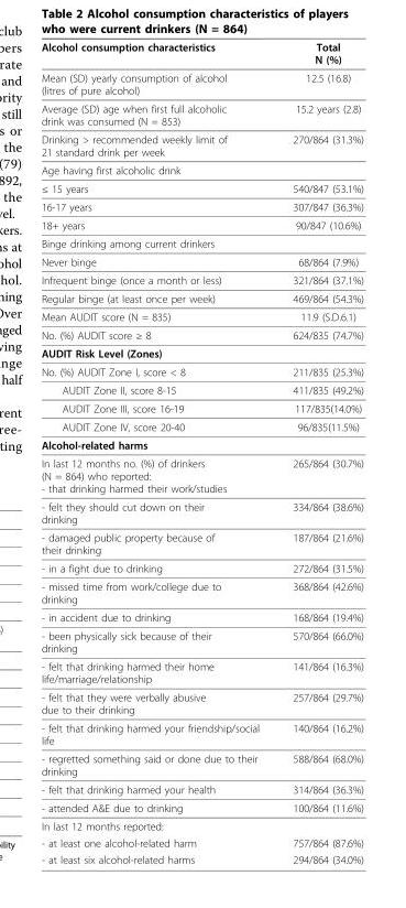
<table><thead><tr><td>Alcohol consumption characteristics</td><td>Total N (%)</td></tr></thead><tbody><tr><td>Mean (SD) yearly consumption of alcohol (litres of pure alcohol)</td><td>12.5 (16.8)</td></tr><tr><td>Average (SD) age when first full alcoholic drink was consumed (N = 853)</td><td>15.2 years (2.8)</td></tr><tr><td>Drinking &gt; recommended weekly limit of 21 standard drink per week</td><td>270/864 (31.3%)</td></tr><tr><td colspan="2">Age having first alcoholic drink</td></tr><tr><td>≤ 15 years</td><td>540/847 (53.1%)</td></tr><tr><td>16-17 years</td><td>307/847 (36.3%)</td></tr><tr><td>18+ years</td><td>90/847 (10.6%)</td></tr><tr><td colspan="2">Binge drinking among current drinkers</td></tr><tr><td>Never binge</td><td>68/864 (7.9%)</td></tr><tr><td>Infrequent binge (once a month or less)</td><td>321/864 (37.1%)</td></tr><tr><td>Regular binge (at least once per week)</td><td>469/864 (54.3%)</td></tr><tr><td>Mean AUDIT score (N = 835)</td><td>11.9 (S.D.6.1)</td></tr><tr><td>No. (%) AUDIT score ≥ 8</td><td>624/835 (74.7%)</td></tr><tr><td colspan="2">AUDIT Risk Level (Zones)</td></tr><tr><td>No. (%) AUDIT Zone I, score &lt; 8</td><td>211/835 (25.3%)</td></tr><tr><td>AUDIT Zone II, score 8-15</td><td>411/835 (49.2%)</td></tr><tr><td>AUDIT Zone III, score 16-19</td><td>117/835(14.0%)</td></tr><tr><td>AUDIT Zone IV, score 20-40</td><td>96/835(11.5%)</td></tr><tr><td colspan="2">Alcohol-related harms</td></tr><tr><td>In last 12 months no. (%) of drinkers (N = 864) who reported: - that drinking harmed their work/studies</td><td>265/864 (30.7%)</td></tr><tr><td>- felt they should cut down on their drinking</td><td>334/864 (38.6%)</td></tr><tr><td>- damaged public property because of their drinking</td><td>187/864 (21.6%)</td></tr><tr><td>- in a fight due to drinking</td><td>272/864 (31.5%)</td></tr><tr><td>- missed time from work/college due to drinking</td><td>368/864 (42.6%)</td></tr><tr><td>- in accident due to drinking</td><td>168/864 (19.4%)</td></tr><tr><td>- been physically sick because of their drinking</td><td>570/864 (66.0%)</td></tr><tr><td>- felt that drinking harmed their home life/marriage/relationship</td><td>141/864 (16.3%)</td></tr><tr><td>- felt that they were verbally abusive due to their drinking</td><td>257/864 (29.7%)</td></tr><tr><td>- felt that drinking harmed your friendship/social life</td><td>140/864 (16.2%)</td></tr><tr><td>- regretted something said or done due to their drinking</td><td>588/864 (68.0%)</td></tr><tr><td>- felt that drinking harmed your health</td><td>314/864 (36.3%)</td></tr><tr><td>- attended A&amp;E due to drinking</td><td>100/864 (11.6%)</td></tr><tr><td colspan="2">In last 12 months reported:</td></tr><tr><td>- at least one alcohol-related harm</td><td>757/864 (87.6%)</td></tr><tr><td>- at least six alcohol-related harms</td><td>294/864 (34.0%)</td></tr></tbody></table>